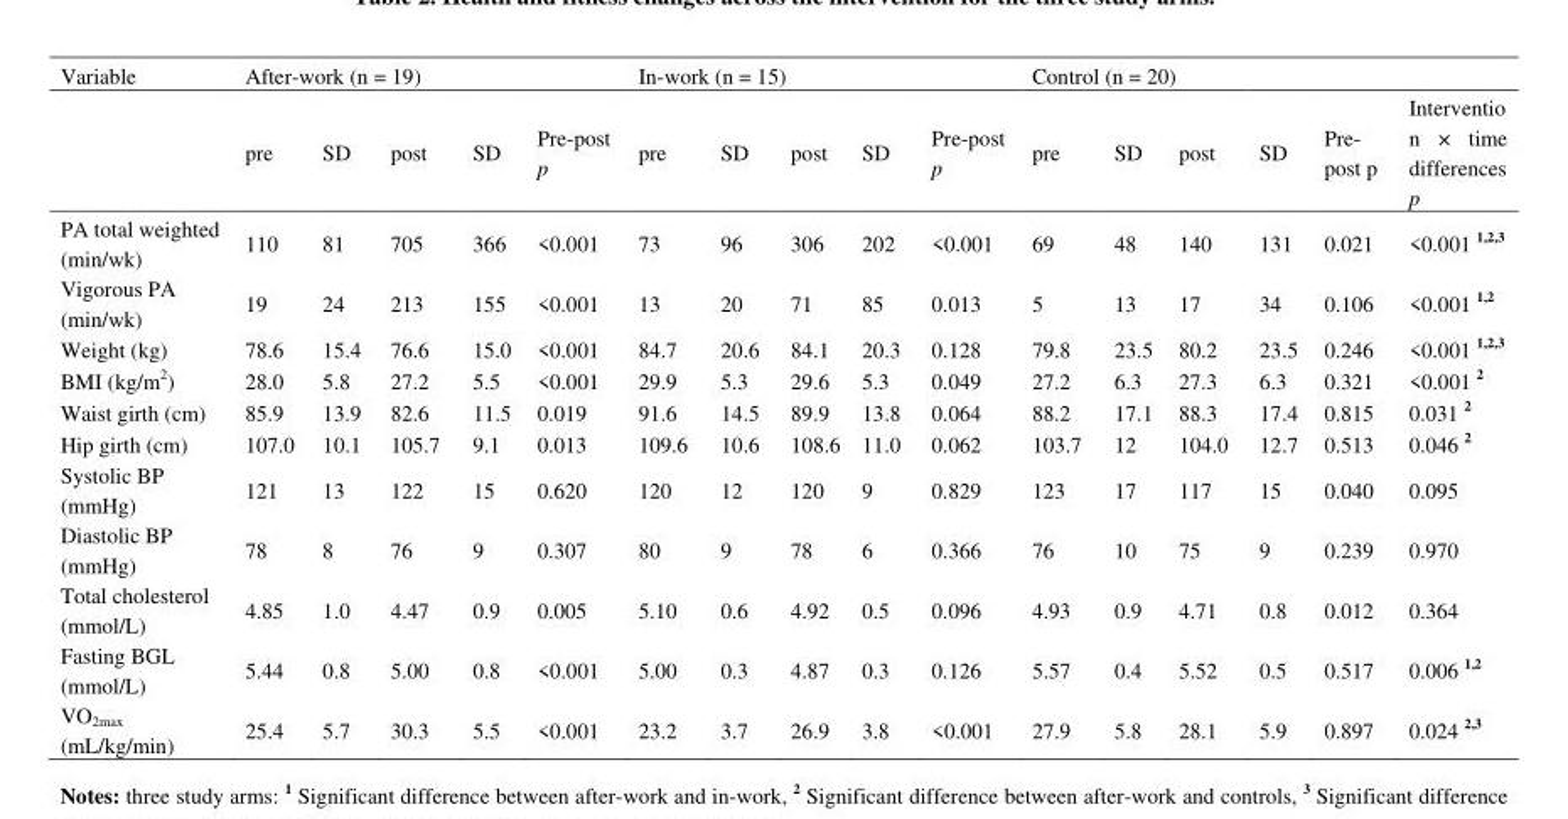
<table><thead><tr><td rowspan="2">Variable</td><td colspan="5">After-work (n = 19)</td><td colspan="5">In-work (n = 15)</td><td colspan="6">Control (n = 20)</td></tr><tr><td>pre</td><td>SD</td><td>post</td><td>SD</td><td>Pre-post p</td><td>pre</td><td>SD</td><td>post</td><td>SD</td><td>Pre-post p</td><td>pre</td><td>SD</td><td>post</td><td>SD</td><td>Pre- post p</td><td>Interventio n × time differences p</td></tr></thead><tbody><tr><td>PA total weighted (min/wk)</td><td>110</td><td>81</td><td>705</td><td>366</td><td>&lt;0.001</td><td>73</td><td>96</td><td>306</td><td>202</td><td>&lt;0.001</td><td>69</td><td>48</td><td>140</td><td>131</td><td>0.021</td><td>&lt;0.001 <sup>1,2,3</sup></td></tr><tr><td>Vigorous PA (min/wk)</td><td>19</td><td>24</td><td>213</td><td>155</td><td>&lt;0.001</td><td>13</td><td>20</td><td>71</td><td>85</td><td>0.013</td><td>5</td><td>13</td><td>17</td><td>34</td><td>0.106</td><td>&lt;0.001 <sup>1,2</sup></td></tr><tr><td>Weight (kg)</td><td>78.6</td><td>15.4</td><td>76.6</td><td>15.0</td><td>&lt;0.001</td><td>84.7</td><td>20.6</td><td>84.1</td><td>20.3</td><td>0.128</td><td>79.8</td><td>23.5</td><td>80.2</td><td>23.5</td><td>0.246</td><td>&lt;0.001 <sup>1,2,3</sup></td></tr><tr><td>BMI (kg/m<sup>2</sup>)</td><td>28.0</td><td>5.8</td><td>27.2</td><td>5.5</td><td>&lt;0.001</td><td>29.9</td><td>5.3</td><td>29.6</td><td>5.3</td><td>0.049</td><td>27.2</td><td>6.3</td><td>27.3</td><td>6.3</td><td>0.321</td><td>&lt;0.001 <sup>2</sup></td></tr><tr><td>Waist girth (cm)</td><td>85.9</td><td>13.9</td><td>82.6</td><td>11.5</td><td>0.019</td><td>91.6</td><td>14.5</td><td>89.9</td><td>13.8</td><td>0.064</td><td>88.2</td><td>17.1</td><td>88.3</td><td>17.4</td><td>0.815</td><td>0.031 <sup>2</sup></td></tr><tr><td>Hip girth (cm)</td><td>107.0</td><td>10.1</td><td>105.7</td><td>9.1</td><td>0.013</td><td>109.6</td><td>10.6</td><td>108.6</td><td>11.0</td><td>0.062</td><td>103.7</td><td>12</td><td>104.0</td><td>12.7</td><td>0.513</td><td>0.046 <sup>2</sup></td></tr><tr><td>Systolic BP (mmHg)</td><td>121</td><td>13</td><td>122</td><td>15</td><td>0.620</td><td>120</td><td>12</td><td>120</td><td>9</td><td>0.829</td><td>123</td><td>17</td><td>117</td><td>15</td><td>0.040</td><td>0.095</td></tr><tr><td>Diastolic BP (mmHg)</td><td>78</td><td>8</td><td>76</td><td>9</td><td>0.307</td><td>80</td><td>9</td><td>78</td><td>6</td><td>0.366</td><td>76</td><td>10</td><td>75</td><td>9</td><td>0.239</td><td>0.970</td></tr><tr><td>Total cholesterol (mmol/L)</td><td>4.85</td><td>1.0</td><td>4.47</td><td>0.9</td><td>0.005</td><td>5.10</td><td>0.6</td><td>4.92</td><td>0.5</td><td>0.096</td><td>4.93</td><td>0.9</td><td>4.71</td><td>0.8</td><td>0.012</td><td>0.364</td></tr><tr><td>Fasting BGL (mmol/L)</td><td>5.44</td><td>0.8</td><td>5.00</td><td>0.8</td><td>&lt;0.001</td><td>5.00</td><td>0.3</td><td>4.87</td><td>0.3</td><td>0.126</td><td>5.57</td><td>0.4</td><td>5.52</td><td>0.5</td><td>0.517</td><td>0.006 <sup>1,2</sup></td></tr><tr><td>VO<sub>2max</sub> (mL/kg/min)</td><td>25.4</td><td>5.7</td><td>30.3</td><td>5.5</td><td>&lt;0.001</td><td>23.2</td><td>3.7</td><td>26.9</td><td>3.8</td><td>&lt;0.001</td><td>27.9</td><td>5.8</td><td>28.1</td><td>5.9</td><td>0.897</td><td>0.024 <sup>2,3</sup></td></tr></tbody></table>